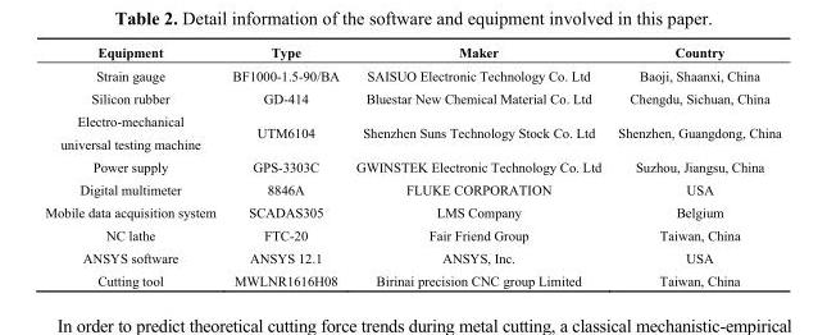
<table><thead><tr><td>Equipment</td><td>Type</td><td>Maker</td><td>Country</td></tr></thead><tbody><tr><td>Strain gauge</td><td>BF1000-1.5-90/BA</td><td>SAISUO Electronic Technology Co. Ltd</td><td>Baoji, Shaanxi, China</td></tr><tr><td>Silicon rubber</td><td>GD-414</td><td>Bluestar New Chemical Material Co. Ltd</td><td>Chengdu, Sichuan, China</td></tr><tr><td>Electro-mechanical universal testing machine</td><td>UTM6104</td><td>Shenzhen Suns Technology Stock Co. Ltd</td><td>Shenzhen, Guangdong, China</td></tr><tr><td>Power supply</td><td>GPS-3303C</td><td>GWINSTEK Electronic Technology Co. Ltd</td><td>Suzhou, Jiangsu, China</td></tr><tr><td>Digital multimeter</td><td>8846A</td><td>FLUKE CORPORATION</td><td>USA</td></tr><tr><td>Mobile data acquisition system</td><td>SCADAS305</td><td>LMS Company</td><td>Belgium</td></tr><tr><td>NC lathe</td><td>FTC-20</td><td>Fair Friend Group</td><td>Taiwan, China</td></tr><tr><td>ANSYS software</td><td>ANSYS 12.1</td><td>ANSYS, Inc.</td><td>USA</td></tr><tr><td>Cutting tool</td><td>MWLNR1616H08</td><td>Birinai precision CNC group Limited</td><td>Taiwan, China</td></tr></tbody></table>